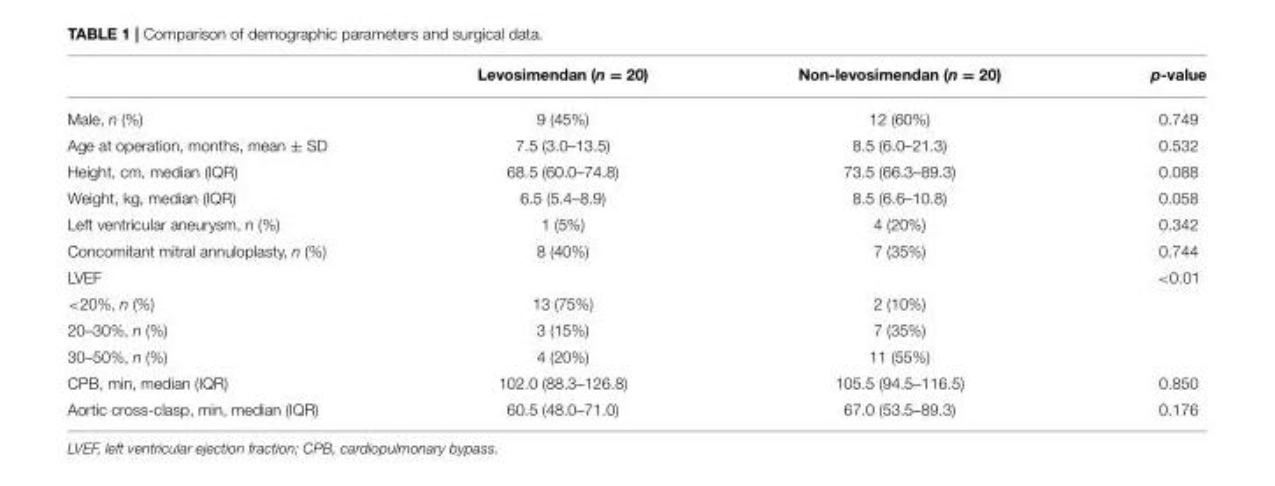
<table><thead><tr><td></td><td>Levosimendan (n = 20)</td><td>Non-levosimendan (n = 20)</td><td>p-value</td></tr></thead><tbody><tr><td>Male, n (%)</td><td>9 (45%)</td><td>12 (60%)</td><td>0.749</td></tr><tr><td>Age at operation, months, mean ± SD</td><td>7.5 (3.0–13.5)</td><td>8.5 (6.0–21.3)</td><td>0.532</td></tr><tr><td>Height, cm, median (IQR)</td><td>68.5 (60.0–74.8)</td><td>73.5 (66.3–89.3)</td><td>0.088</td></tr><tr><td>Weight, kg, median (IQR)</td><td>6.5 (5.4–8.9)</td><td>8.5 (6.6–10.8)</td><td>0.058</td></tr><tr><td>Left ventricular aneurysm, n (%)</td><td>1 (5%)</td><td>4 (20%)</td><td>0.342</td></tr><tr><td>Concomitant mitral annuloplasty, n (%)</td><td>8 (40%)</td><td>7 (35%)</td><td>0.744</td></tr><tr><td>LVEF</td><td></td><td></td><td>&lt;0.01</td></tr><tr><td>&lt;20%, n (%)</td><td>13 (75%)</td><td>2 (10%)</td><td></td></tr><tr><td>20–30%, n (%)</td><td>3 (15%)</td><td>7 (35%)</td><td></td></tr><tr><td>30–50%, n (%)</td><td>4 (20%)</td><td>11 (55%)</td><td></td></tr><tr><td>CPB, min, median (IQR)</td><td>102.0 (88.3–126.8)</td><td>105.5 (94.5–116.5)</td><td>0.850</td></tr><tr><td>Aortic cross-clasp, min, median (IQR)</td><td>60.5 (48.0–71.0)</td><td>67.0 (53.5–89.3)</td><td>0.176</td></tr></tbody></table>